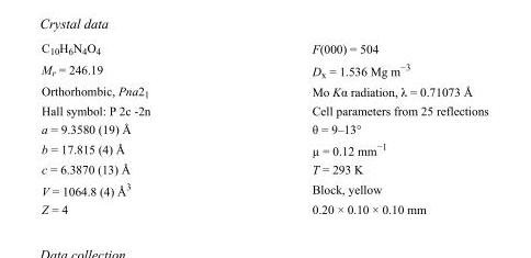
<table><tbody><tr><td>C<sub>10</sub>H<sub>6</sub>N<sub>4</sub>O<sub>4</sub></td><td>F(000) = 504</td></tr><tr><td>M<sub>r</sub> = 246.19</td><td>D<sub>x</sub> = 1.536 Mg m<sup>−3</sup></td></tr><tr><td>Orthorhombic, Pna2<sub>1</sub></td><td>Mo Kα radiation, λ = 0.71073 Å</td></tr><tr><td>Hall symbol: P 2c -2n</td><td>Cell parameters from 25 reflections</td></tr><tr><td>a = 9.3580 (19) Å</td><td>θ = 9–13°</td></tr><tr><td>b = 17.815 (4) Å</td><td>µ = 0.12 mm<sup>−1</sup></td></tr><tr><td>c = 6.3870 (13) Å</td><td>T = 293 K</td></tr><tr><td>V = 1064.8 (4) Å<sup>3</sup></td><td>Block, yellow</td></tr><tr><td>Z = 4</td><td>0.20 × 0.10 × 0.10 mm</td></tr></tbody></table>